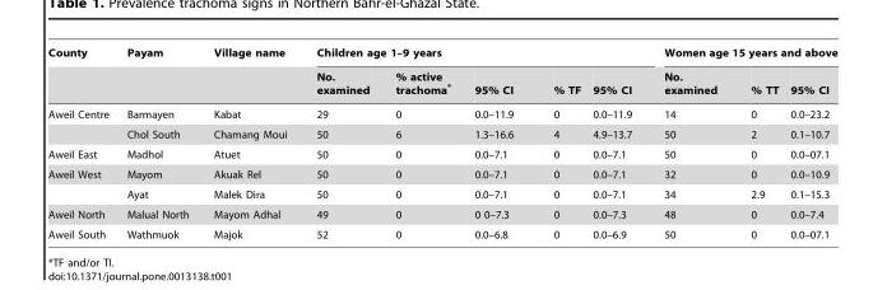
<table><thead><tr><td rowspan="2">County</td><td rowspan="2">Payam</td><td rowspan="2">Village name</td><td colspan="5">Children age 1–9 years</td><td colspan="3">Women age 15 years and above</td></tr><tr><td>No. examined</td><td>% active trachoma*</td><td>95% CI</td><td>% TF</td><td>95% CI</td><td>No. examined</td><td>% TT</td><td>95% CI</td></tr></thead><tbody><tr><td rowspan="2">Aweil Centre</td><td>Barmayen</td><td>Kabat</td><td>29</td><td>0</td><td>0.0–11.9</td><td>0</td><td>0.0–11.9</td><td>14</td><td>0</td><td>0.0–23.2</td></tr><tr><td>Chol South</td><td>Chamang Moui</td><td>50</td><td>6</td><td>1.3–16.6</td><td>4</td><td>4.9–13.7</td><td>50</td><td>2</td><td>0.1–10.7</td></tr><tr><td>Aweil East</td><td>Madhol</td><td>Atuet</td><td>50</td><td>0</td><td>0.0–7.1</td><td>0</td><td>0.0–7.1</td><td>50</td><td>0</td><td>0.0–07.1</td></tr><tr><td rowspan="2">Aweil West</td><td>Mayom</td><td>Akuak Rel</td><td>50</td><td>0</td><td>0.0–7.1</td><td>0</td><td>0.0–7.1</td><td>32</td><td>0</td><td>0.0–10.9</td></tr><tr><td>Ayat</td><td>Malek Dira</td><td>50</td><td>0</td><td>0.0–7.1</td><td>0</td><td>0.0–7.1</td><td>34</td><td>2.9</td><td>0.1–15.3</td></tr><tr><td>Aweil North</td><td>Malual North</td><td>Mayom Adhal</td><td>49</td><td>0</td><td>0 0–7.3</td><td>0</td><td>0.0–7.3</td><td>48</td><td>0</td><td>0.0–7.4</td></tr><tr><td>Aweil South</td><td>Wathmuok</td><td>Majok</td><td>52</td><td>0</td><td>0.0–6.8</td><td>0</td><td>0.0–6.9</td><td>50</td><td>0</td><td>0.0–07.1</td></tr></tbody></table>